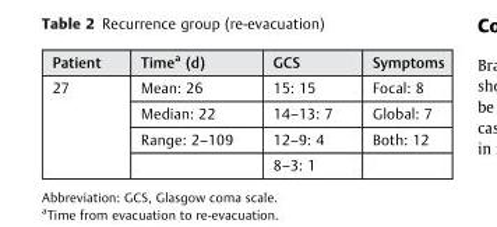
<table><thead><tr><td>Patient</td><td>Timea (d)</td><td>GCS</td><td>Symptoms</td></tr></thead><tbody><tr><td rowspan="4">27</td><td>Mean: 26</td><td>15: 15</td><td>Focal: 8</td></tr><tr><td>Median: 22</td><td>14–13: 7</td><td>Global: 7</td></tr><tr><td>Range: 2–109</td><td>12–9: 4</td><td>Both: 12</td></tr><tr><td></td><td>8–3: 1</td><td></td></tr></tbody></table>